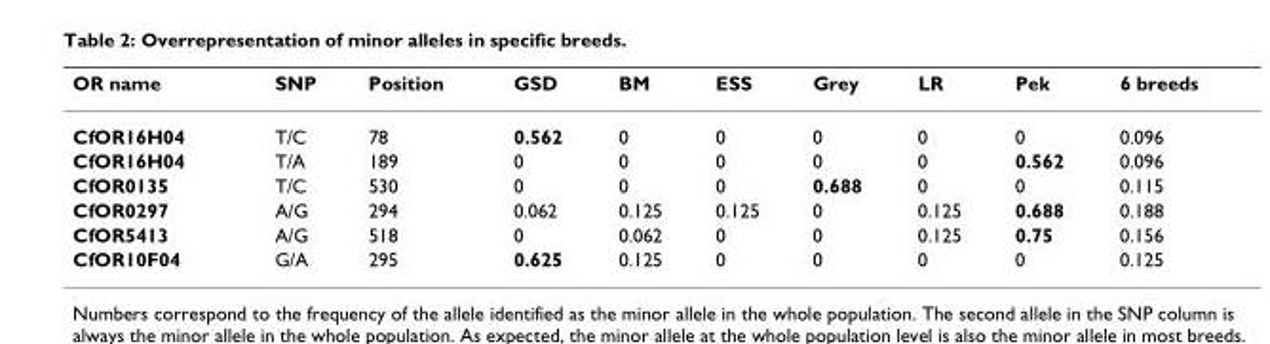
<table><thead><tr><td>OR name</td><td>SNP</td><td>Position</td><td>GSD</td><td>BM</td><td>ESS</td><td>Grey</td><td>LR</td><td>Pek</td><td>6 breeds</td></tr></thead><tbody><tr><td>CfOR16H04</td><td>T/C</td><td>78</td><td>0.562</td><td>0</td><td>0</td><td>0</td><td>0</td><td>0</td><td>0.096</td></tr><tr><td>CfOR16H04</td><td>T/A</td><td>189</td><td>0</td><td>0</td><td>0</td><td>0</td><td>0</td><td>0.562</td><td>0.096</td></tr><tr><td>CfOR0135</td><td>T/C</td><td>530</td><td>0</td><td>0</td><td>0</td><td>0.688</td><td>0</td><td>0</td><td>0.115</td></tr><tr><td>CfOR0297</td><td>A/G</td><td>294</td><td>0.062</td><td>0.125</td><td>0.125</td><td>0</td><td>0.125</td><td>0.688</td><td>0.188</td></tr><tr><td>CfOR5413</td><td>A/G</td><td>518</td><td>0</td><td>0.062</td><td>0</td><td>0</td><td>0.125</td><td>0.75</td><td>0.156</td></tr><tr><td>CfOR10F04</td><td>G/A</td><td>295</td><td>0.625</td><td>0.125</td><td>0</td><td>0</td><td>0</td><td>0</td><td>0.125</td></tr></tbody></table>